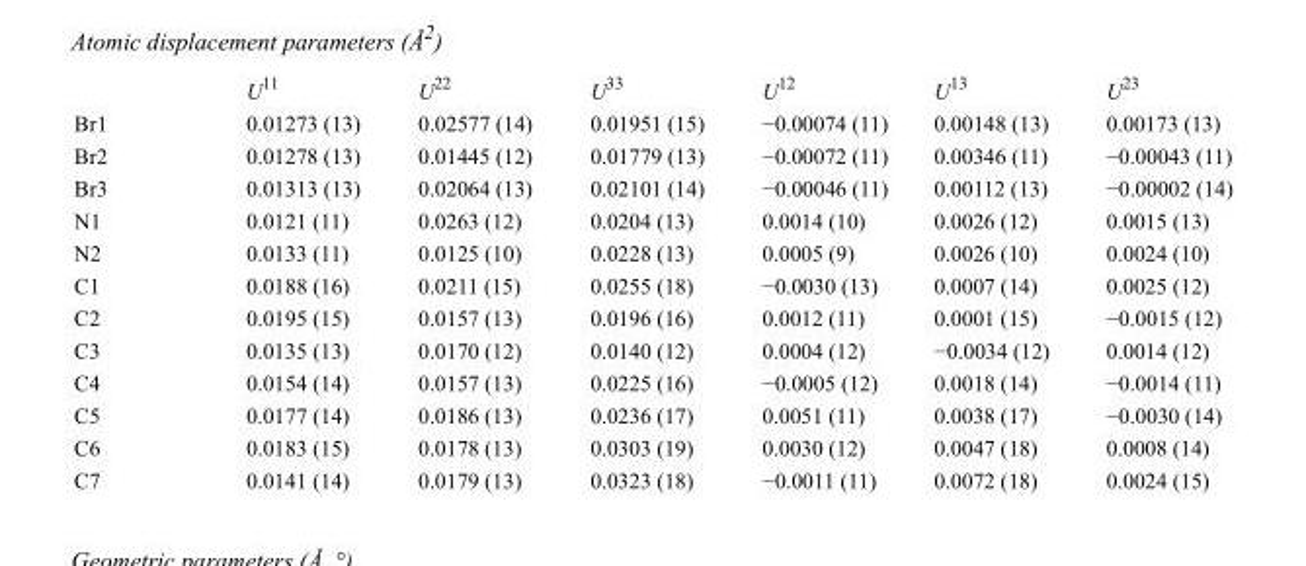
<table><thead><tr><td></td><td>U<sup>11</sup></td><td>U<sup>22</sup></td><td>U<sup>33</sup></td><td>U<sup>12</sup></td><td>U<sup>13</sup></td><td>U<sup>23</sup></td></tr></thead><tbody><tr><td>Br1</td><td>0.01273 (13)</td><td>0.02577 (14)</td><td>0.01951 (15)</td><td>−0.00074 (11)</td><td>0.00148 (13)</td><td>0.00173 (13)</td></tr><tr><td>Br2</td><td>0.01278 (13)</td><td>0.01445 (12)</td><td>0.01779 (13)</td><td>−0.00072 (11)</td><td>0.00346 (11)</td><td>−0.00043 (11)</td></tr><tr><td>Br3</td><td>0.01313 (13)</td><td>0.02064 (13)</td><td>0.02101 (14)</td><td>−0.00046 (11)</td><td>0.00112 (13)</td><td>−0.00002 (14)</td></tr><tr><td>N1</td><td>0.0121 (11)</td><td>0.0263 (12)</td><td>0.0204 (13)</td><td>0.0014 (10)</td><td>0.0026 (12)</td><td>0.0015 (13)</td></tr><tr><td>N2</td><td>0.0133 (11)</td><td>0.0125 (10)</td><td>0.0228 (13)</td><td>0.0005 (9)</td><td>0.0026 (10)</td><td>0.0024 (10)</td></tr><tr><td>C1</td><td>0.0188 (16)</td><td>0.0211 (15)</td><td>0.0255 (18)</td><td>−0.0030 (13)</td><td>0.0007 (14)</td><td>0.0025 (12)</td></tr><tr><td>C2</td><td>0.0195 (15)</td><td>0.0157 (13)</td><td>0.0196 (16)</td><td>0.0012 (11)</td><td>0.0001 (15)</td><td>−0.0015 (12)</td></tr><tr><td>C3</td><td>0.0135 (13)</td><td>0.0170 (12)</td><td>0.0140 (12)</td><td>0.0004 (12)</td><td>−0.0034 (12)</td><td>0.0014 (12)</td></tr><tr><td>C4</td><td>0.0154 (14)</td><td>0.0157 (13)</td><td>0.0225 (16)</td><td>−0.0005 (12)</td><td>0.0018 (14)</td><td>−0.0014 (11)</td></tr><tr><td>C5</td><td>0.0177 (14)</td><td>0.0186 (13)</td><td>0.0236 (17)</td><td>0.0051 (11)</td><td>0.0038 (17)</td><td>−0.0030 (14)</td></tr><tr><td>C6</td><td>0.0183 (15)</td><td>0.0178 (13)</td><td>0.0303 (19)</td><td>0.0030 (12)</td><td>0.0047 (18)</td><td>0.0008 (14)</td></tr><tr><td>C7</td><td>0.0141 (14)</td><td>0.0179 (13)</td><td>0.0323 (18)</td><td>−0.0011 (11)</td><td>0.0072 (18)</td><td>0.0024 (15)</td></tr></tbody></table>